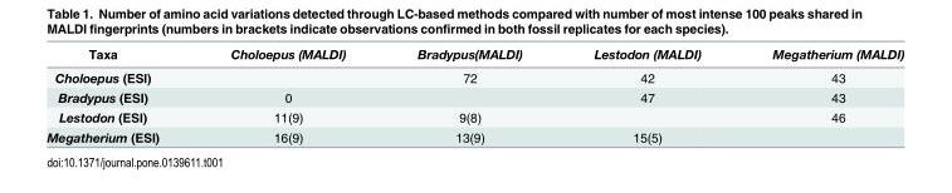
<table><thead><tr><td>Taxa</td><td>Choloepus (MALDI)</td><td>Bradypus(MALDI)</td><td>Lestodon (MALDI)</td><td>Megatherium (MALDI)</td></tr></thead><tbody><tr><td>Choloepus (ESI)</td><td></td><td>72</td><td>42</td><td>43</td></tr><tr><td>Bradypus (ESI)</td><td>0</td><td></td><td>47</td><td>43</td></tr><tr><td>Lestodon (ESI)</td><td>11(9)</td><td>9(8)</td><td></td><td>46</td></tr><tr><td>Megatherium (ESI)</td><td>16(9)</td><td>13(9)</td><td>15(5)</td><td></td></tr></tbody></table>